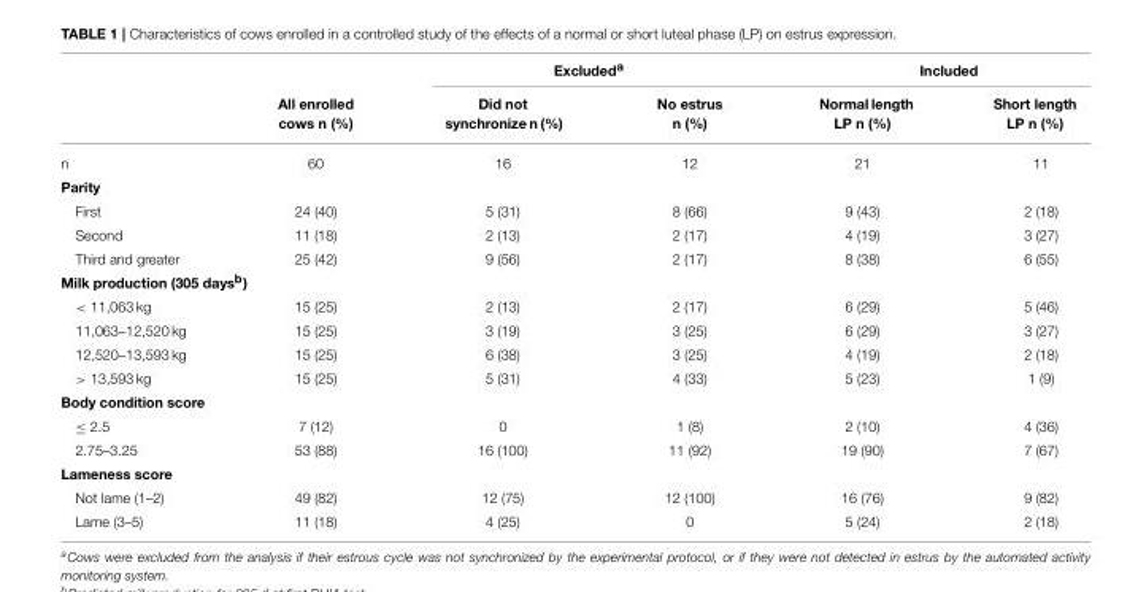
<table><thead><tr><td rowspan="2"></td><td rowspan="2">All enrolled cows n (%)</td><td colspan="2">Excluded<sup>a</sup></td><td colspan="2">Included</td></tr><tr><td>Did not synchronize n (%)</td><td>No estrus n (%)</td><td>Normal length LP n (%)</td><td>Short length LP n (%)</td></tr></thead><tbody><tr><td>n</td><td>60</td><td>16</td><td>12</td><td>21</td><td>11</td></tr><tr><td colspan="6">Parity</td></tr><tr><td>First</td><td>24 (40)</td><td>5 (31)</td><td>8 (66)</td><td>9 (43)</td><td>2 (18)</td></tr><tr><td>Second</td><td>11 (18)</td><td>2 (13)</td><td>2 (17)</td><td>4 (19)</td><td>3 (27)</td></tr><tr><td>Third and greater</td><td>25 (42)</td><td>9 (56)</td><td>2 (17)</td><td>8 (38)</td><td>6 (55)</td></tr><tr><td colspan="6">Milk production (305 days<sup>b</sup>)</td></tr><tr><td>&lt; 11,063 kg</td><td>15 (25)</td><td>2 (13)</td><td>2 (17)</td><td>6 (29)</td><td>5 (46)</td></tr><tr><td>11,063–12,520 kg</td><td>15 (25)</td><td>3 (19)</td><td>3 (25)</td><td>6 (29)</td><td>3 (27)</td></tr><tr><td>12,520–13,593 kg</td><td>15 (25)</td><td>6 (38)</td><td>3 (25)</td><td>4 (19)</td><td>2 (18)</td></tr><tr><td>&gt; 13,593 kg</td><td>15 (25)</td><td>5 (31)</td><td>4 (33)</td><td>5 (23)</td><td>1 (9)</td></tr><tr><td colspan="6">Body condition score</td></tr><tr><td>≤ 2.5</td><td>7 (12)</td><td>0</td><td>1 (8)</td><td>2 (10)</td><td>4 (36)</td></tr><tr><td>2.75–3.25</td><td>53 (88)</td><td>16 (100)</td><td>11 (92)</td><td>19 (90)</td><td>7 (67)</td></tr><tr><td colspan="6">Lameness score</td></tr><tr><td>Not lame (1–2)</td><td>49 (82)</td><td>12 (75)</td><td>12 (100)</td><td>16 (76)</td><td>9 (82)</td></tr><tr><td>Lame (3–5)</td><td>11 (18)</td><td>4 (25)</td><td>0</td><td>5 (24)</td><td>2 (18)</td></tr></tbody></table>